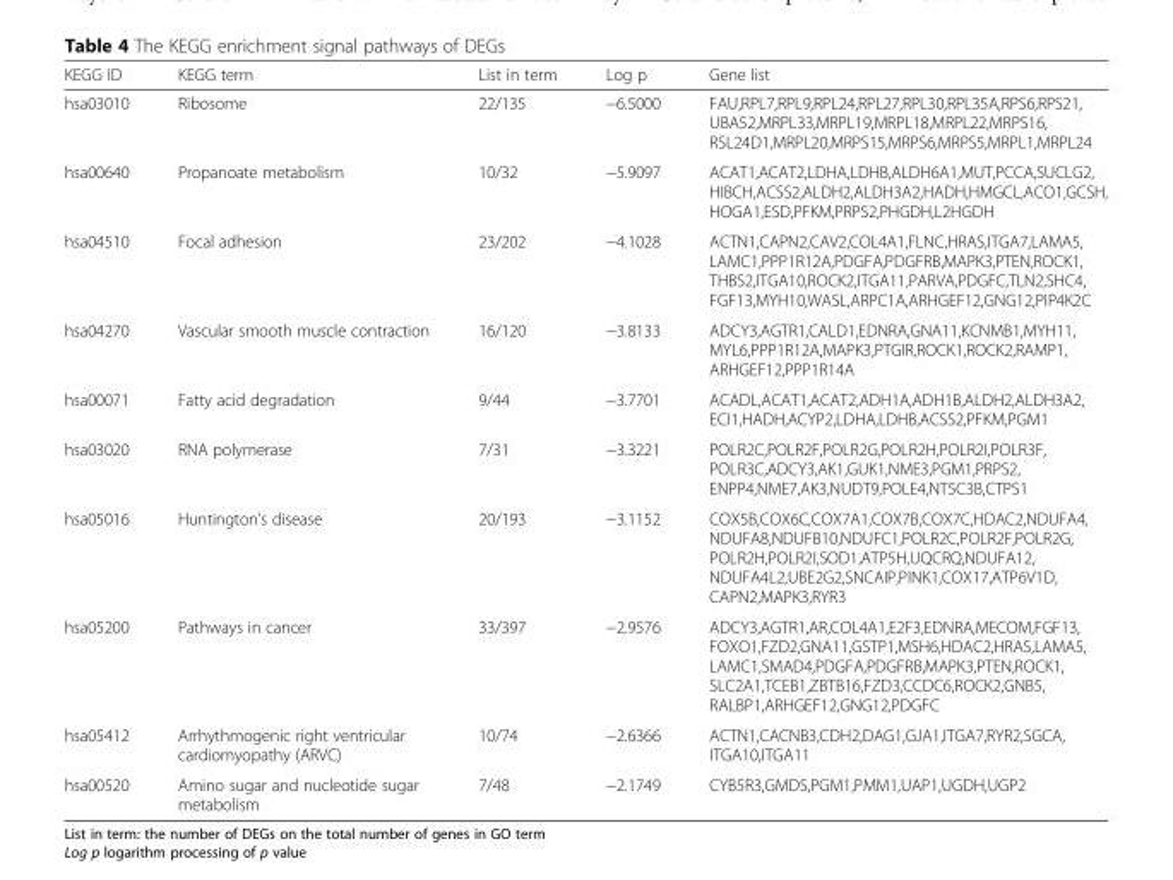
<table><thead><tr><td>KEGG ID</td><td>KEGG term</td><td>List in term</td><td>Log p</td><td>Gene list</td></tr></thead><tbody><tr><td>hsa03010</td><td>Ribosome</td><td>22/135</td><td>−6.5000</td><td>FAU,RPL7,RPL9,RPL24,RPL27,RPL30,RPL35A,RPS6,RPS21, UBA52,MRPL33,MRPL19,MRPL18,MRPL22,MRPS16, RSL24D1,MRPL20,MRPS15,MRPS6,MRPS5,MRPL1,MRPL24</td></tr><tr><td>hsa00640</td><td>Propanoate metabolism</td><td>10/32</td><td>−5.9097</td><td>ACAT1,ACAT2,LDHA,LDHB,ALDH6A1,MUT,PCCA,SUCLG2, HIBCH,ACSS2,ALDH2,ALDH3A2,HADH,HMGCL,ACO1,GCSH, HOGA1,ESD,PFKM,PRPS2,PHGDH,L2HGDH</td></tr><tr><td>hsa04510</td><td>Focal adhesion</td><td>23/202</td><td>−4.1028</td><td>ACTN1,CAPN2,CAV2,COL4A1,FLNC,HRAS,ITGA7,LAMA5, LAMC1,PPP1R12A,PDGFA,PDGFRB,MAPK3,PTEN,ROCK1, THBS2,ITGA10,ROCK2,ITGA11,PARVA,PDGFC,TLN2,SHC4, FGF13,MYH10,WASL,ARPC1A,ARHGEF12,GNG12,PIP4K2C</td></tr><tr><td>hsa04270</td><td>Vascular smooth muscle contraction</td><td>16/120</td><td>−3.8133</td><td>ADCY3,AGTR1,CALD1,EDNRA,GNA11,KCNMB1,MYH11, MYL6,PPP1R12A,MAPK3,PTGIR,ROCK1,ROCK2,RAMP1, ARHGEF12,PPP1R14A</td></tr><tr><td>hsa00071</td><td>Fatty acid degradation</td><td>9/44</td><td>−3.7701</td><td>ACADL,ACAT1,ACAT2,ADH1A,ADH1B,ALDH2,ALDH3A2, ECI1,HADH,ACYP2,LDHA,LDHB,ACSS2,PFKM,PGM1</td></tr><tr><td>hsa03020</td><td>RNA polymerase</td><td>7/31</td><td>−3.3221</td><td>POLR2C,POLR2F,POLR2G,POLR2H,POLR2I,POLR3F, POLR3C,ADCY3,AK1,GUK1,NME3,PGM1,PRPS2, ENPP4,NME7,AK3,NUDT9,POLE4,NT5C3B,CTPS1</td></tr><tr><td>hsa05016</td><td>Huntington’s disease</td><td>20/193</td><td>−3.1152</td><td>COX5B,COX6C,COX7A1,COX7B,COX7C,HDAC2,NDUFA4, NDUFA8,NDUFB10,NDUFC1,POLR2C,POLR2F,POLR2G, POLR2H,POLR2I,SOD1,ATP5H,UQCRQ,NDUFA12, NDUFA4L2,UBE2G2,SNCAIP,PINK1,COX17,ATP6V1D, CAPN2,MAPK3,RYR3</td></tr><tr><td>hsa05200</td><td>Pathways in cancer</td><td>33/397</td><td>−2.9576</td><td>ADCY3,AGTR1,AR,COL4A1,E2F3,EDNRA,MECOM,FGF13, FOXO1,FZD2,GNA11,GSTP1,MSH6,HDAC2,HRAS,LAMA5, LAMC1,SMAD4,PDGFA,PDGFRB,MAPK3,PTEN,ROCK1, SLC2A1,TCEB1,ZBTB16,FZD3,CCDC6,ROCK2,GNB5, RALBP1,ARHGEF12,GNG12,PDGFC</td></tr><tr><td>hsa05412</td><td>Arrhythmogenic right ventricular cardiomyopathy (ARVC)</td><td>10/74</td><td>−2.6366</td><td>ACTN1,CACNB3,CDH2,DAG1,GJA1,ITGA7,RYR2,SGCA, ITGA10,ITGA11</td></tr><tr><td>hsa00520</td><td>Amino sugar and nucleotide sugar metabolism</td><td>7/48</td><td>−2.1749</td><td>CYB5R3,GMDS,PGM1,PMM1,UAP1,UGDH,UGP2</td></tr></tbody></table>